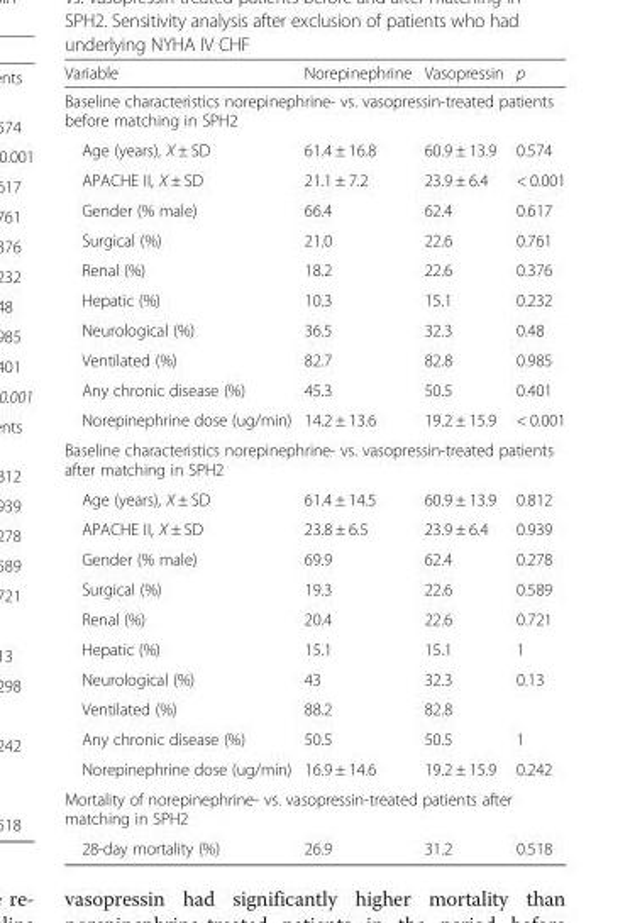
<table><thead><tr><td>Variable</td><td>Norepinephrine</td><td>Vasopressin</td><td>p</td></tr></thead><tbody><tr><td colspan="4">Baseline characteristics norepinephrine- vs. vasopressin-treated patients before matching in SPH2</td></tr><tr><td>Age (years), X ± SD</td><td>61.4 ± 16.8</td><td>60.9 ± 13.9</td><td>0.574</td></tr><tr><td>APACHE II, X ± SD</td><td>21.1 ± 7.2</td><td>23.9 ± 6.4</td><td>&lt; 0.001</td></tr><tr><td>Gender (% male)</td><td>66.4</td><td>62.4</td><td>0.617</td></tr><tr><td>Surgical (%)</td><td>21.0</td><td>22.6</td><td>0.761</td></tr><tr><td>Renal (%)</td><td>18.2</td><td>22.6</td><td>0.376</td></tr><tr><td>Hepatic (%)</td><td>10.3</td><td>15.1</td><td>0.232</td></tr><tr><td>Neurological (%)</td><td>36.5</td><td>32.3</td><td>0.48</td></tr><tr><td>Ventilated (%)</td><td>82.7</td><td>82.8</td><td>0.985</td></tr><tr><td>Any chronic disease (%)</td><td>45.3</td><td>50.5</td><td>0.401</td></tr><tr><td>Norepinephrine dose (ug/min)</td><td>14.2 ± 13.6</td><td>19.2 ± 15.9</td><td>&lt; 0.001</td></tr><tr><td colspan="4">Baseline characteristics norepinephrine- vs. vasopressin-treated patients after matching in SPH2</td></tr><tr><td>Age (years), X ± SD</td><td>61.4 ± 14.5</td><td>60.9 ± 13.9</td><td>0.812</td></tr><tr><td>APACHE II, X ± SD</td><td>23.8 ± 6.5</td><td>23.9 ± 6.4</td><td>0.939</td></tr><tr><td>Gender (% male)</td><td>69.9</td><td>62.4</td><td>0.278</td></tr><tr><td>Surgical (%)</td><td>19.3</td><td>22.6</td><td>0.589</td></tr><tr><td>Renal (%)</td><td>20.4</td><td>22.6</td><td>0.721</td></tr><tr><td>Hepatic (%)</td><td>15.1</td><td>15.1</td><td>1</td></tr><tr><td>Neurological (%)</td><td>43</td><td>32.3</td><td>0.13</td></tr><tr><td>Ventilated (%)</td><td>88.2</td><td>82.8</td><td></td></tr><tr><td>Any chronic disease (%)</td><td>50.5</td><td>50.5</td><td>1</td></tr><tr><td>Norepinephrine dose (ug/min)</td><td>16.9 ± 14.6</td><td>19.2 ± 15.9</td><td>0.242</td></tr><tr><td colspan="4">Mortality of norepinephrine- vs. vasopressin-treated patients after matching in SPH2</td></tr><tr><td>28-day mortality (%)</td><td>26.9</td><td>31.2</td><td>0.518</td></tr></tbody></table>